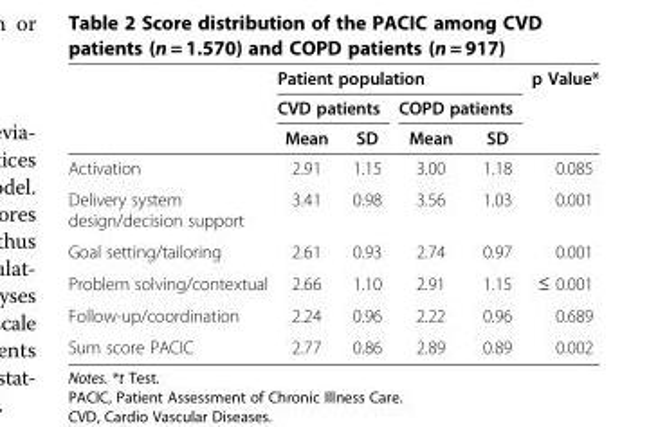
<table><thead><tr><td rowspan="3"></td><td colspan="4">Patient population</td><td rowspan="3">p Value*</td></tr><tr><td colspan="2">CVD patients</td><td colspan="2">COPD patients</td></tr><tr><td>Mean</td><td>SD</td><td>Mean</td><td>SD</td></tr></thead><tbody><tr><td>Activation</td><td>2.91</td><td>1.15</td><td>3.00</td><td>1.18</td><td>0.085</td></tr><tr><td>Delivery system design/decision support</td><td>3.41</td><td>0.98</td><td>3.56</td><td>1.03</td><td>0.001</td></tr><tr><td>Goal setting/tailoring</td><td>2.61</td><td>0.93</td><td>2.74</td><td>0.97</td><td>0.001</td></tr><tr><td>Problem solving/contextual</td><td>2.66</td><td>1.10</td><td>2.91</td><td>1.15</td><td>≤ 0.001</td></tr><tr><td>Follow-up/coordination</td><td>2.24</td><td>0.96</td><td>2.22</td><td>0.96</td><td>0.689</td></tr><tr><td>Sum score PACIC</td><td>2.77</td><td>0.86</td><td>2.89</td><td>0.89</td><td>0.002</td></tr></tbody></table>